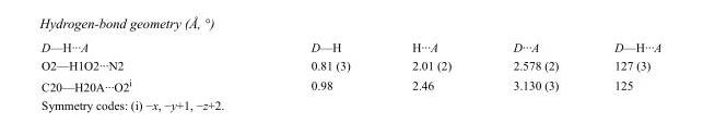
<table><tbody><tr><td>D—H···A</td><td>D—H</td><td>H···A</td><td>D···A</td><td>D—H···A</td></tr><tr><td>O2—H1O2···N2</td><td>0.81 (3)</td><td>2.01 (2)</td><td>2.578 (2)</td><td>127 (3)</td></tr><tr><td>C20—H20A···O2<sup>i</sup></td><td>0.98</td><td>2.46</td><td>3.130 (3)</td><td>125</td></tr></tbody></table>